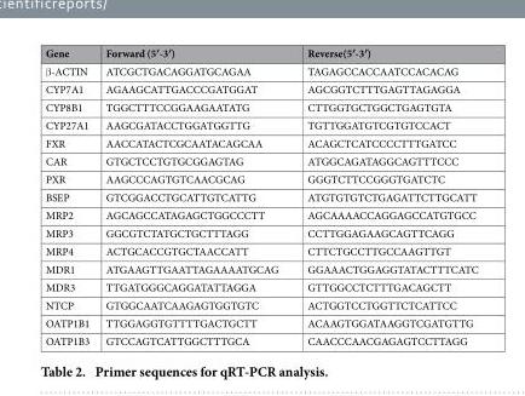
<table><thead><tr><td>Gene</td><td>Forward (5′-3′)</td><td>Reverse(5′-3′)</td></tr></thead><tbody><tr><td>β -ACTIN</td><td>ATCGCTGACAGGATGCAGAA</td><td>TAGAGCCACCAATCCACACAG</td></tr><tr><td>CYP7A1</td><td>AGAAGCATTGACCCGATGGAT</td><td>AGCGGTCTTTGAGTTAGAGGA</td></tr><tr><td>CYP8B1</td><td>TGGCTTTCCGGAAGAATATG</td><td>CTTGGTGCTGGCTGAGTGTA</td></tr><tr><td>CYP27A1</td><td>AAGCGATACCTGGATGGTTG</td><td>TGTTGGATGTCGTGTCCACT</td></tr><tr><td>FXR</td><td>AACCATACTCGCAATACAGCAA</td><td>ACAGCTCATCCCCTTTGATCC</td></tr><tr><td>CAR</td><td>GTGCTCCTGTGCGGAGTAG</td><td>ATGGCAGATAGGCAGTTTCCC</td></tr><tr><td>PXR</td><td>AAGCCCAGTGTCAACGCAG</td><td>GGGTCTTCCGGGTGATCTC</td></tr><tr><td>BSEP</td><td>GTCGGACCTGCATTGTCATTG</td><td>ATGTGTGTCTGAGATTCTTGCATT</td></tr><tr><td>MRP2</td><td>AGCAGCCATAGAGCTGGCCCTT</td><td>AGCAAAACCAGGAGCCATGTGCC</td></tr><tr><td>MRP3</td><td>GGCGTCTATGCTGCTTTAGG</td><td>CCTTGGAGAAGCAGTTCAGG</td></tr><tr><td>MRP4</td><td>ACTGCACCGTGCTAACCATT</td><td>CTTCTGCCTTGCCAAGTTGT</td></tr><tr><td>MDR1</td><td>ATGAAGTTGAATTAGAAAATGCAG</td><td>GGAAACTGGAGGTATACTTTCATC</td></tr><tr><td>MDR3</td><td>TTGATGGGCAGGATATTAGGA</td><td>GTTGGCCTCTTTGACAGCTT</td></tr><tr><td>NTCP</td><td>GTGGCAATCAAGAGTGGTGTC</td><td>ACTGGTCCTGGTTCTCATTCC</td></tr><tr><td>OATP1B1</td><td>TTGGAGGTGTTTTGACTGCTT</td><td>ACAAGTGGATAAGGTCGATGTTG</td></tr><tr><td>OATP1B3</td><td>GTCCAGTCATTGGCTTTGCA</td><td>CAACCCAACGAGAGTCCTTAGG</td></tr></tbody></table>